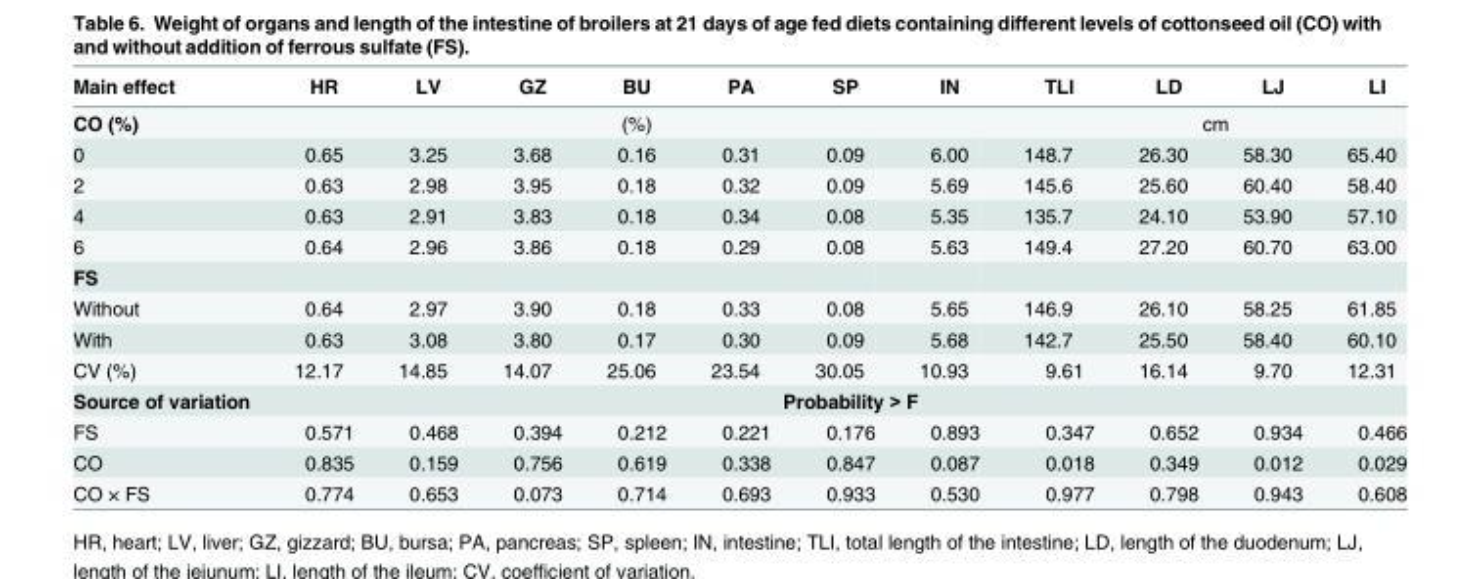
<table><thead><tr><td>Main effect</td><td>HR</td><td>LV</td><td>GZ</td><td>BU</td><td>PA</td><td>SP</td><td>IN</td><td>TLI</td><td>LD</td><td>LJ</td><td>LI</td></tr></thead><tbody><tr><td>CO (%)</td><td colspan="7">(%)</td><td colspan="4">cm</td></tr><tr><td>0</td><td>0.65</td><td>3.25</td><td>3.68</td><td>0.16</td><td>0.31</td><td>0.09</td><td>6.00</td><td>148.7</td><td>26.30</td><td>58.30</td><td>65.40</td></tr><tr><td>2</td><td>0.63</td><td>2.98</td><td>3.95</td><td>0.18</td><td>0.32</td><td>0.09</td><td>5.69</td><td>145.6</td><td>25.60</td><td>60.40</td><td>58.40</td></tr><tr><td>4</td><td>0.63</td><td>2.91</td><td>3.83</td><td>0.18</td><td>0.34</td><td>0.08</td><td>5.35</td><td>135.7</td><td>24.10</td><td>53.90</td><td>57.10</td></tr><tr><td>6</td><td>0.64</td><td>2.96</td><td>3.86</td><td>0.18</td><td>0.29</td><td>0.08</td><td>5.63</td><td>149.4</td><td>27.20</td><td>60.70</td><td>63.00</td></tr><tr><td colspan="12">FS</td></tr><tr><td>Without</td><td>0.64</td><td>2.97</td><td>3.90</td><td>0.18</td><td>0.33</td><td>0.08</td><td>5.65</td><td>146.9</td><td>26.10</td><td>58.25</td><td>61.85</td></tr><tr><td>With</td><td>0.63</td><td>3.08</td><td>3.80</td><td>0.17</td><td>0.30</td><td>0.09</td><td>5.68</td><td>142.7</td><td>25.50</td><td>58.40</td><td>60.10</td></tr><tr><td>CV (%)</td><td>12.17</td><td>14.85</td><td>14.07</td><td>25.06</td><td>23.54</td><td>30.05</td><td>10.93</td><td>9.61</td><td>16.14</td><td>9.70</td><td>12.31</td></tr><tr><td>Source of variation</td><td colspan="11">Probability &gt; F</td></tr><tr><td>FS</td><td>0.571</td><td>0.468</td><td>0.394</td><td>0.212</td><td>0.221</td><td>0.176</td><td>0.893</td><td>0.347</td><td>0.652</td><td>0.934</td><td>0.466</td></tr><tr><td>CO</td><td>0.835</td><td>0.159</td><td>0.756</td><td>0.619</td><td>0.338</td><td>0.847</td><td>0.087</td><td>0.018</td><td>0.349</td><td>0.012</td><td>0.029</td></tr><tr><td>CO × FS</td><td>0.774</td><td>0.653</td><td>0.073</td><td>0.714</td><td>0.693</td><td>0.933</td><td>0.530</td><td>0.977</td><td>0.798</td><td>0.943</td><td>0.608</td></tr></tbody></table>